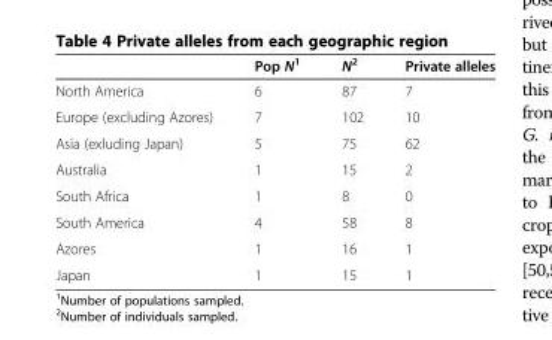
<table><thead><tr><td></td><td>Pop N<sup>1</sup></td><td>N<sup>2</sup></td><td>Private alleles</td></tr></thead><tbody><tr><td>North America</td><td>6</td><td>87</td><td>7</td></tr><tr><td>Europe (excluding Azores)</td><td>7</td><td>102</td><td>10</td></tr><tr><td>Asia (exluding Japan)</td><td>5</td><td>75</td><td>62</td></tr><tr><td>Australia</td><td>1</td><td>15</td><td>2</td></tr><tr><td>South Africa</td><td>1</td><td>8</td><td>0</td></tr><tr><td>South America</td><td>4</td><td>58</td><td>8</td></tr><tr><td>Azores</td><td>1</td><td>16</td><td>1</td></tr><tr><td>Japan</td><td>1</td><td>15</td><td>1</td></tr></tbody></table>